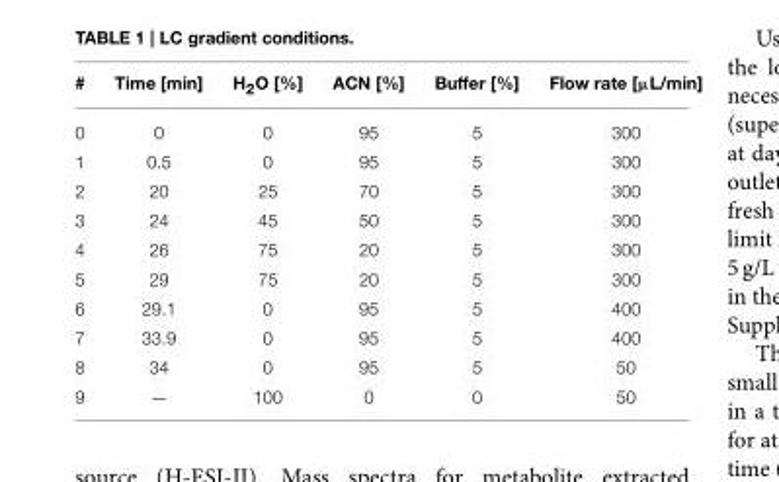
<table><thead><tr><td>#</td><td>Time [min]</td><td>H<sub>2</sub>O [%]</td><td>ACN [%]</td><td>Buffer [%]</td><td>Flow rate [µL/min]</td></tr></thead><tbody><tr><td>0</td><td>0</td><td>0</td><td>95</td><td>5</td><td>300</td></tr><tr><td>1</td><td>0.5</td><td>0</td><td>95</td><td>5</td><td>300</td></tr><tr><td>2</td><td>20</td><td>25</td><td>70</td><td>5</td><td>300</td></tr><tr><td>3</td><td>24</td><td>45</td><td>50</td><td>5</td><td>300</td></tr><tr><td>4</td><td>26</td><td>75</td><td>20</td><td>5</td><td>300</td></tr><tr><td>5</td><td>29</td><td>75</td><td>20</td><td>5</td><td>300</td></tr><tr><td>6</td><td>29.1</td><td>0</td><td>95</td><td>5</td><td>400</td></tr><tr><td>7</td><td>33.9</td><td>0</td><td>95</td><td>5</td><td>400</td></tr><tr><td>8</td><td>34</td><td>0</td><td>95</td><td>5</td><td>50</td></tr><tr><td>9</td><td>—</td><td>100</td><td>0</td><td>0</td><td>50</td></tr></tbody></table>